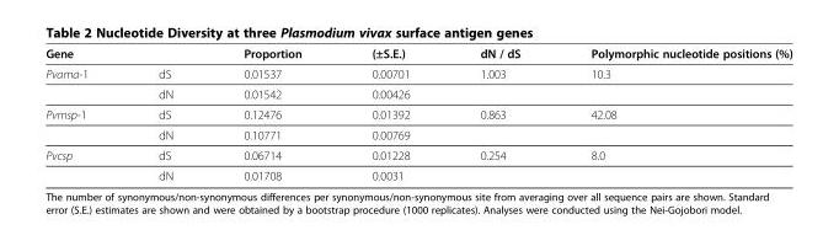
<table><thead><tr><td>Gene</td><td></td><td>Proportion</td><td>(±S.E.)</td><td>dN / dS</td><td>Polymorphic nucleotide positions (%)</td></tr></thead><tbody><tr><td rowspan="2">Pvama-1</td><td>dS</td><td>0.01537</td><td>0.00701</td><td>1.003</td><td>10.3</td></tr><tr><td>dN</td><td>0.01542</td><td>0.00426</td><td></td><td></td></tr><tr><td rowspan="2">Pvmsp-1</td><td>dS</td><td>0.12476</td><td>0.01392</td><td>0.863</td><td>42.08</td></tr><tr><td>dN</td><td>0.10771</td><td>0.00769</td><td></td><td></td></tr><tr><td rowspan="2">Pvcsp</td><td>dS</td><td>0.06714</td><td>0.01228</td><td>0.254</td><td>8.0</td></tr><tr><td>dN</td><td>0.01708</td><td>0.0031</td><td></td><td></td></tr></tbody></table>